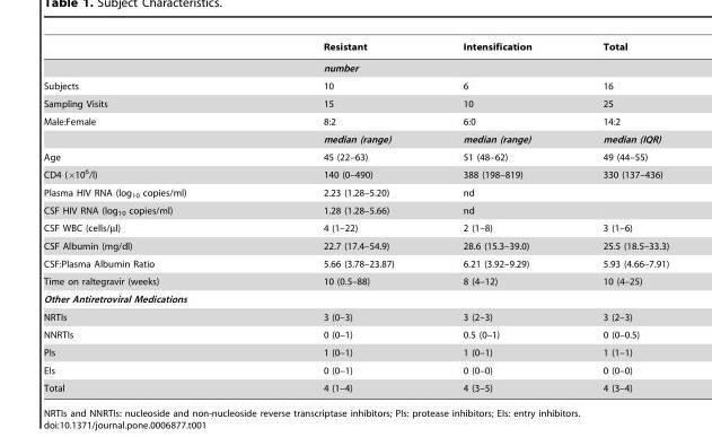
<table><thead><tr><td></td><td>Resistant</td><td>Intensification</td><td>Total</td></tr></thead><tbody><tr><td></td><td colspan="3">number</td></tr><tr><td>Subjects</td><td>10</td><td>6</td><td>16</td></tr><tr><td>Sampling Visits</td><td>15</td><td>10</td><td>25</td></tr><tr><td rowspan="2">Male:Female</td><td>8:2</td><td>6:0</td><td>14:2</td></tr><tr><td>median (range)</td><td>median (range)</td><td>median (IQR)</td></tr><tr><td>Age</td><td>45 (22–63)</td><td>51 (48–62)</td><td>49 (44–55)</td></tr><tr><td>CD4 (×10<sup>6</sup>/l)</td><td>140 (0–490)</td><td>388 (198–819)</td><td>330 (137–436)</td></tr><tr><td>Plasma HIV RNA (log<sub>10</sub> copies/ml)</td><td>2.23 (1.28–5.20)</td><td>nd</td><td></td></tr><tr><td>CSF HIV RNA (log<sub>10</sub> copies/ml)</td><td>1.28 (1.28–5.66)</td><td>nd</td><td></td></tr><tr><td>CSF WBC (cells/µl)</td><td>4 (1–22)</td><td>2 (1–8)</td><td>3 (1–6)</td></tr><tr><td>CSF Albumin (mg/dl)</td><td>22.7 (17.4–54.9)</td><td>28.6 (15.3–39.0)</td><td>25.5 (18.5–33.3)</td></tr><tr><td>CSF:Plasma Albumin Ratio</td><td>5.66 (3.78–23.87)</td><td>6.21 (3.92–9.29)</td><td>5.93 (4.66–7.91)</td></tr><tr><td>Time on raltegravir (weeks)</td><td>10 (0.5–88)</td><td>8 (4–12)</td><td>10 (4–25)</td></tr><tr><td colspan="4">Other Antiretroviral Medications</td></tr><tr><td>NRTIs</td><td>3 (0–3)</td><td>3 (2–3)</td><td>3 (2–3)</td></tr><tr><td>NNRTIs</td><td>0 (0–1)</td><td>0.5 (0–1)</td><td>0 (0–0.5)</td></tr><tr><td>PIs</td><td>1 (0–1)</td><td>1 (0–1)</td><td>1 (1–1)</td></tr><tr><td>EIs</td><td>0 (0–1)</td><td>0 (0–0)</td><td>0 (0–0)</td></tr><tr><td>Total</td><td>4 (1–4)</td><td>4 (3–5)</td><td>4 (3–4)</td></tr></tbody></table>